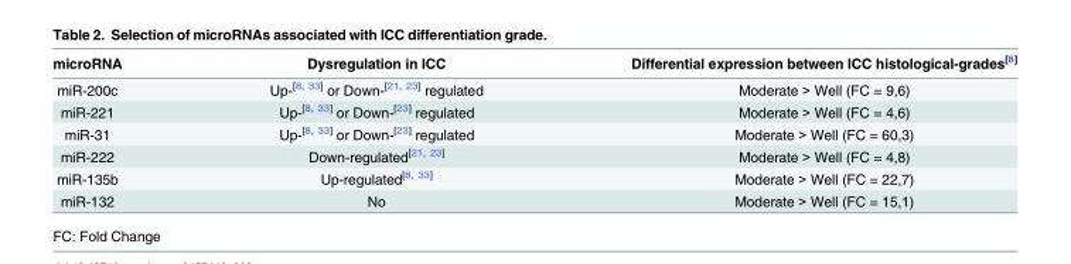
<table><thead><tr><td>microRNA</td><td>Dysregulation in ICC</td><td>Differential expression between ICC histological-grades<sup>[8]</sup></td></tr></thead><tbody><tr><td>miR-200c</td><td>Up-<sup>[8, 33]</sup> or Down-<sup>[21, 23]</sup> regulated</td><td>Moderate &gt; Well (FC = 9,6)</td></tr><tr><td>miR-221</td><td>Up-<sup>[8, 33]</sup> or Down-<sup>[23]</sup> regulated</td><td>Moderate &gt; Well (FC = 4,6)</td></tr><tr><td>miR-31</td><td>Up-<sup>[8, 33]</sup> or Down-<sup>[23]</sup> regulated</td><td>Moderate &gt; Well (FC = 60,3)</td></tr><tr><td>miR-222</td><td>Down-regulated<sup>[21, 23]</sup></td><td>Moderate &gt; Well (FC = 4,8)</td></tr><tr><td>miR-135b</td><td>Up-regulated<sup>[8, 33]</sup></td><td>Moderate &gt; Well (FC = 22,7)</td></tr><tr><td>miR-132</td><td>No</td><td>Moderate &gt; Well (FC = 15,1)</td></tr></tbody></table>